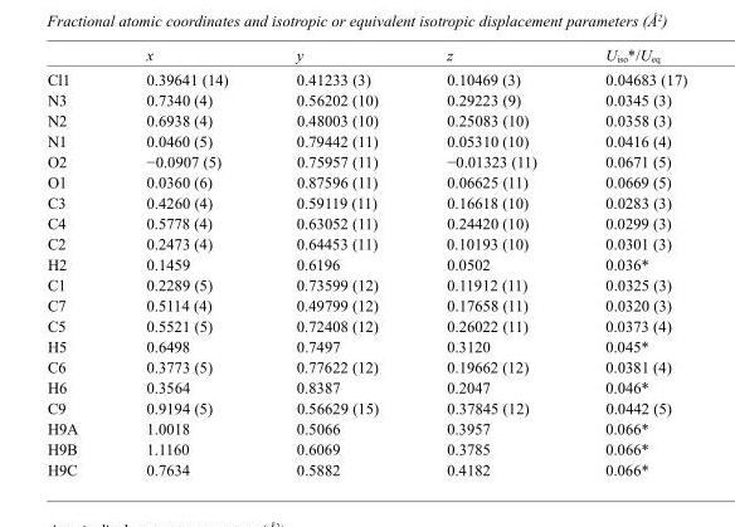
<table><thead><tr><td></td><td>x</td><td>y</td><td>z</td><td>U<sub>iso</sub>*/U<sub>eq</sub></td></tr></thead><tbody><tr><td>Cl1</td><td>0.39641 (14)</td><td>0.41233 (3)</td><td>0.10469 (3)</td><td>0.04683 (17)</td></tr><tr><td>N3</td><td>0.7340 (4)</td><td>0.56202 (10)</td><td>0.29223 (9)</td><td>0.0345 (3)</td></tr><tr><td>N2</td><td>0.6938 (4)</td><td>0.48003 (10)</td><td>0.25083 (10)</td><td>0.0358 (3)</td></tr><tr><td>N1</td><td>0.0460 (5)</td><td>0.79442 (11)</td><td>0.05310 (10)</td><td>0.0416 (4)</td></tr><tr><td>O2</td><td>−0.0907 (5)</td><td>0.75957 (11)</td><td>−0.01323 (11)</td><td>0.0671 (5)</td></tr><tr><td>O1</td><td>0.0360 (6)</td><td>0.87596 (11)</td><td>0.06625 (11)</td><td>0.0669 (5)</td></tr><tr><td>C3</td><td>0.4260 (4)</td><td>0.59119 (11)</td><td>0.16618 (10)</td><td>0.0283 (3)</td></tr><tr><td>C4</td><td>0.5778 (4)</td><td>0.63052 (11)</td><td>0.24420 (10)</td><td>0.0299 (3)</td></tr><tr><td>C2</td><td>0.2473 (4)</td><td>0.64453 (11)</td><td>0.10193 (10)</td><td>0.0301 (3)</td></tr><tr><td>H2</td><td>0.1459</td><td>0.6196</td><td>0.0502</td><td>0.036*</td></tr><tr><td>C1</td><td>0.2289 (5)</td><td>0.73599 (12)</td><td>0.11912 (11)</td><td>0.0325 (3)</td></tr><tr><td>C7</td><td>0.5114 (4)</td><td>0.49799 (12)</td><td>0.17658 (11)</td><td>0.0320 (3)</td></tr><tr><td>C5</td><td>0.5521 (5)</td><td>0.72408 (12)</td><td>0.26022 (11)</td><td>0.0373 (4)</td></tr><tr><td>H5</td><td>0.6498</td><td>0.7497</td><td>0.3120</td><td>0.045*</td></tr><tr><td>C6</td><td>0.3773 (5)</td><td>0.77622 (12)</td><td>0.19662 (12)</td><td>0.0381 (4)</td></tr><tr><td>H6</td><td>0.3564</td><td>0.8387</td><td>0.2047</td><td>0.046*</td></tr><tr><td>C9</td><td>0.9194 (5)</td><td>0.56629 (15)</td><td>0.37845 (12)</td><td>0.0442 (5)</td></tr><tr><td>H9A</td><td>1.0018</td><td>0.5066</td><td>0.3957</td><td>0.066*</td></tr><tr><td>H9B</td><td>1.1160</td><td>0.6069</td><td>0.3785</td><td>0.066*</td></tr><tr><td>H9C</td><td>0.7634</td><td>0.5882</td><td>0.4182</td><td>0.066*</td></tr></tbody></table>